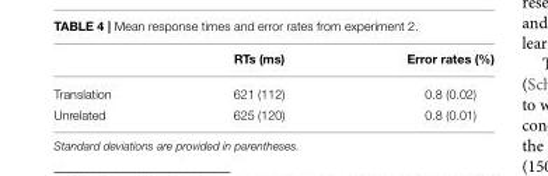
<table><thead><tr><td></td><td>RTs (ms)</td><td>Error rates (%)</td></tr></thead><tbody><tr><td>Translation</td><td>621 (112)</td><td>0.8 (0.02)</td></tr><tr><td>Unrelated</td><td>625 (120)</td><td>0.8 (0.01)</td></tr></tbody></table>